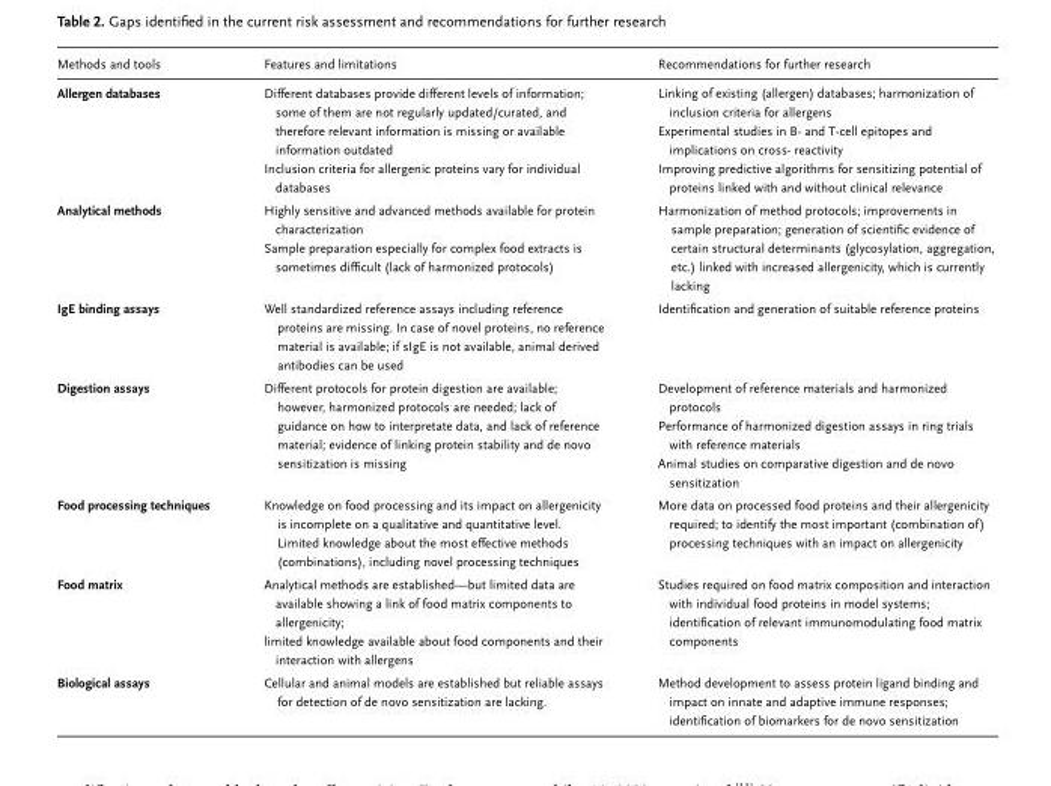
<table><thead><tr><td>Methods and tools</td><td>Features and limitations</td><td>Recommendations for further research</td></tr></thead><tbody><tr><td>Allergen databases</td><td>Different databases provide different levels of information; some of them are not regularly updated/curated, and therefore relevant information is missing or available information outdated Inclusion criteria for allergenic proteins vary for individual databases</td><td>Linking of existing (allergen) databases; harmonization of inclusion criteria for allergens Experimental studies in B- and T-cell epitopes and implications on cross- reactivity Improving predictive algorithms for sensitizing potential of proteins linked with and without clinical relevance</td></tr><tr><td>Analytical methods</td><td>Highly sensitive and advanced methods available for protein characterization Sample preparation especially for complex food extracts is sometimes difficult (lack of harmonized protocols)</td><td>Harmonization of method protocols; improvements in sample preparation; generation of scientific evidence of certain structural determinants (glycosylation, aggregation, etc.) linked with increased allergenicity, which is currently lacking</td></tr><tr><td>IgE binding assays</td><td>Well standardized reference assays including reference proteins are missing. In case of novel proteins, no reference material is available; if sIgE is not available, animal derived antibodies can be used</td><td>Identification and generation of suitable reference proteins</td></tr><tr><td>Digestion assays</td><td>Different protocols for protein digestion are available; however, harmonized protocols are needed; lack of guidance on how to interpretate data, and lack of reference material; evidence of linking protein stability and de novo sensitization is missing</td><td>Development of reference materials and harmonized protocols Performance of harmonized digestion assays in ring trials with reference materials Animal studies on comparative digestion and de novo sensitization</td></tr><tr><td>Food processing techniques</td><td>Knowledge on food processing and its impact on allergenicity is incomplete on a qualitative and quantitative level. Limited knowledge about the most effective methods (combinations), including novel processing techniques</td><td>More data on processed food proteins and their allergenicity required; to identify the most important (combination of) processing techniques with an impact on allergenicity</td></tr><tr><td>Food matrix</td><td>Analytical methods are established—but limited data are available showing a link of food matrix components to allergenicity; limited knowledge available about food components and their interaction with allergens</td><td>Studies required on food matrix composition and interaction with individual food proteins in model systems; identification of relevant immunomodulating food matrix components</td></tr><tr><td>Biological assays</td><td>Cellular and animal models are established but reliable assays for detection of de novo sensitization are lacking.</td><td>Method development to assess protein ligand binding and impact on innate and adaptive immune responses; identification of biomarkers for de novo sensitization</td></tr></tbody></table>